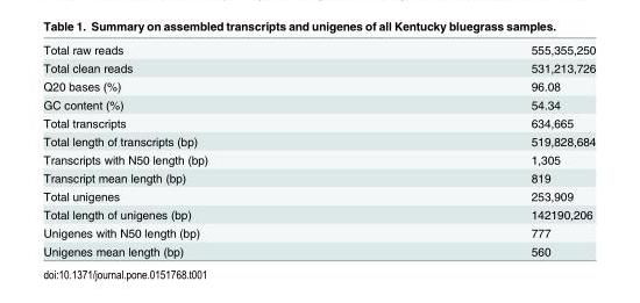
<table><tbody><tr><td>Total raw reads</td><td>555,355,250</td></tr><tr><td>Total clean reads</td><td>531,213,726</td></tr><tr><td>Q20 bases (%)</td><td>96.08</td></tr><tr><td>GC content (%)</td><td>54.34</td></tr><tr><td>Total transcripts</td><td>634,665</td></tr><tr><td>Total length of transcripts (bp)</td><td>519,828,684</td></tr><tr><td>Transcripts with N50 length (bp)</td><td>1,305</td></tr><tr><td>Transcript mean length (bp)</td><td>819</td></tr><tr><td>Total unigenes</td><td>253,909</td></tr><tr><td>Total length of unigenes (bp)</td><td>142190,206</td></tr><tr><td>Unigenes with N50 length (bp)</td><td>777</td></tr><tr><td>Unigenes mean length (bp)</td><td>560</td></tr></tbody></table>